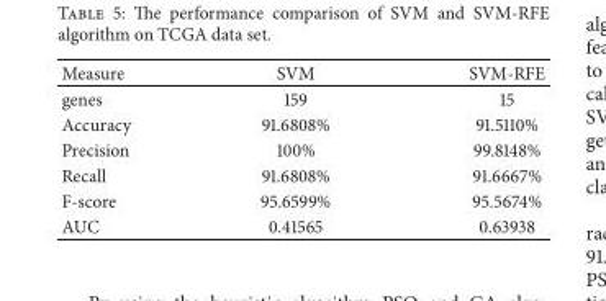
<table><thead><tr><td>Measure</td><td>SVM</td><td>SVM-RFE</td></tr></thead><tbody><tr><td>genes</td><td>159</td><td>15</td></tr><tr><td>Accuracy</td><td>91.6808%</td><td>91.5110%</td></tr><tr><td>Precision</td><td>100%</td><td>99.8148%</td></tr><tr><td>Recall</td><td>91.6808%</td><td>91.6667%</td></tr><tr><td>F-score</td><td>95.6599%</td><td>95.5674%</td></tr><tr><td>AUC</td><td>0.41565</td><td>0.63938</td></tr></tbody></table>